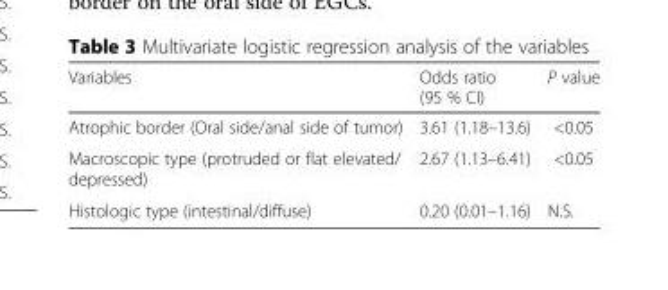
<table><thead><tr><td>Variables</td><td>Odds ratio (95 % CI)</td><td>P value</td></tr></thead><tbody><tr><td>Atrophic border (Oral side/anal side of tumor)</td><td>3.61 (1.18–13.6)</td><td>&lt;0.05</td></tr><tr><td>Macroscopic type (protruded or flat elevated/ depressed)</td><td>2.67 (1.13–6.41)</td><td>&lt;0.05</td></tr><tr><td>Histologic type (intestinal/diffuse)</td><td>0.20 (0.01–1.16)</td><td>N.S.</td></tr></tbody></table>